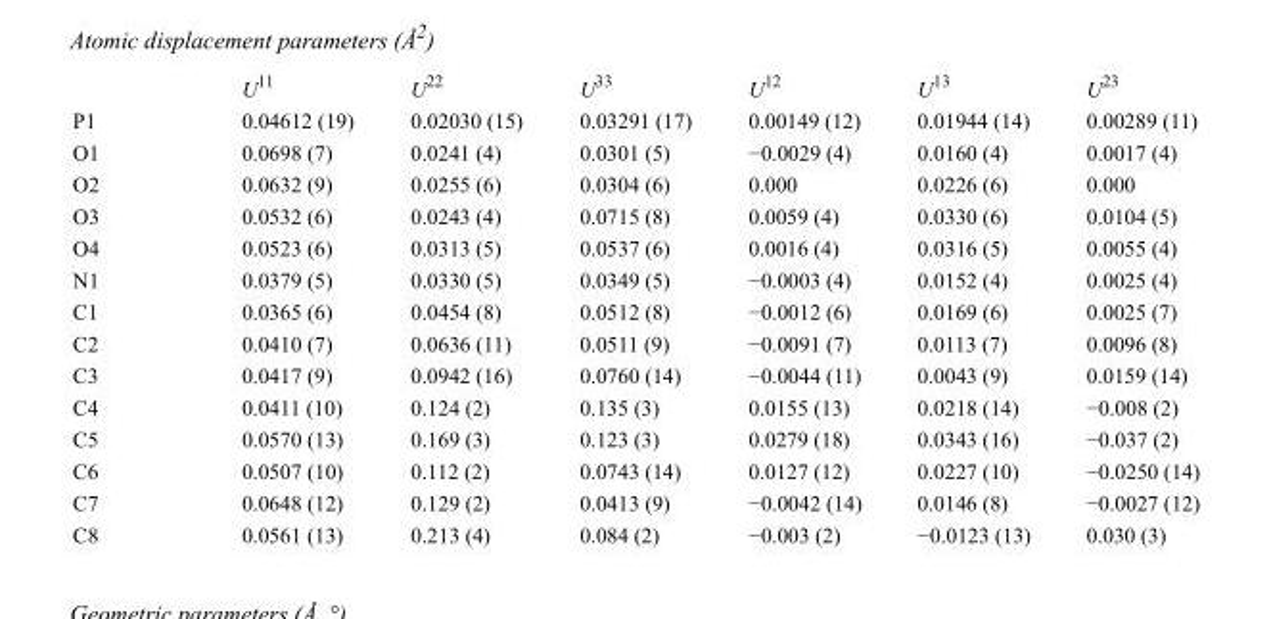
<table><thead><tr><td></td><td>U<sup>11</sup></td><td>U<sup>22</sup></td><td>U<sup>33</sup></td><td>U<sup>12</sup></td><td>U<sup>13</sup></td><td>U<sup>23</sup></td></tr></thead><tbody><tr><td>P1</td><td>0.04612 (19)</td><td>0.02030 (15)</td><td>0.03291 (17)</td><td>0.00149 (12)</td><td>0.01944 (14)</td><td>0.00289 (11)</td></tr><tr><td>O1</td><td>0.0698 (7)</td><td>0.0241 (4)</td><td>0.0301 (5)</td><td>−0.0029 (4)</td><td>0.0160 (4)</td><td>0.0017 (4)</td></tr><tr><td>O2</td><td>0.0632 (9)</td><td>0.0255 (6)</td><td>0.0304 (6)</td><td>0.000</td><td>0.0226 (6)</td><td>0.000</td></tr><tr><td>O3</td><td>0.0532 (6)</td><td>0.0243 (4)</td><td>0.0715 (8)</td><td>0.0059 (4)</td><td>0.0330 (6)</td><td>0.0104 (5)</td></tr><tr><td>O4</td><td>0.0523 (6)</td><td>0.0313 (5)</td><td>0.0537 (6)</td><td>0.0016 (4)</td><td>0.0316 (5)</td><td>0.0055 (4)</td></tr><tr><td>N1</td><td>0.0379 (5)</td><td>0.0330 (5)</td><td>0.0349 (5)</td><td>−0.0003 (4)</td><td>0.0152 (4)</td><td>0.0025 (4)</td></tr><tr><td>C1</td><td>0.0365 (6)</td><td>0.0454 (8)</td><td>0.0512 (8)</td><td>−0.0012 (6)</td><td>0.0169 (6)</td><td>0.0025 (7)</td></tr><tr><td>C2</td><td>0.0410 (7)</td><td>0.0636 (11)</td><td>0.0511 (9)</td><td>−0.0091 (7)</td><td>0.0113 (7)</td><td>0.0096 (8)</td></tr><tr><td>C3</td><td>0.0417 (9)</td><td>0.0942 (16)</td><td>0.0760 (14)</td><td>−0.0044 (11)</td><td>0.0043 (9)</td><td>0.0159 (14)</td></tr><tr><td>C4</td><td>0.0411 (10)</td><td>0.124 (2)</td><td>0.135 (3)</td><td>0.0155 (13)</td><td>0.0218 (14)</td><td>−0.008 (2)</td></tr><tr><td>C5</td><td>0.0570 (13)</td><td>0.169 (3)</td><td>0.123 (3)</td><td>0.0279 (18)</td><td>0.0343 (16)</td><td>−0.037 (2)</td></tr><tr><td>C6</td><td>0.0507 (10)</td><td>0.112 (2)</td><td>0.0743 (14)</td><td>0.0127 (12)</td><td>0.0227 (10)</td><td>−0.0250 (14)</td></tr><tr><td>C7</td><td>0.0648 (12)</td><td>0.129 (2)</td><td>0.0413 (9)</td><td>−0.0042 (14)</td><td>0.0146 (8)</td><td>−0.0027 (12)</td></tr><tr><td>C8</td><td>0.0561 (13)</td><td>0.213 (4)</td><td>0.084 (2)</td><td>−0.003 (2)</td><td>−0.0123 (13)</td><td>0.030 (3)</td></tr></tbody></table>